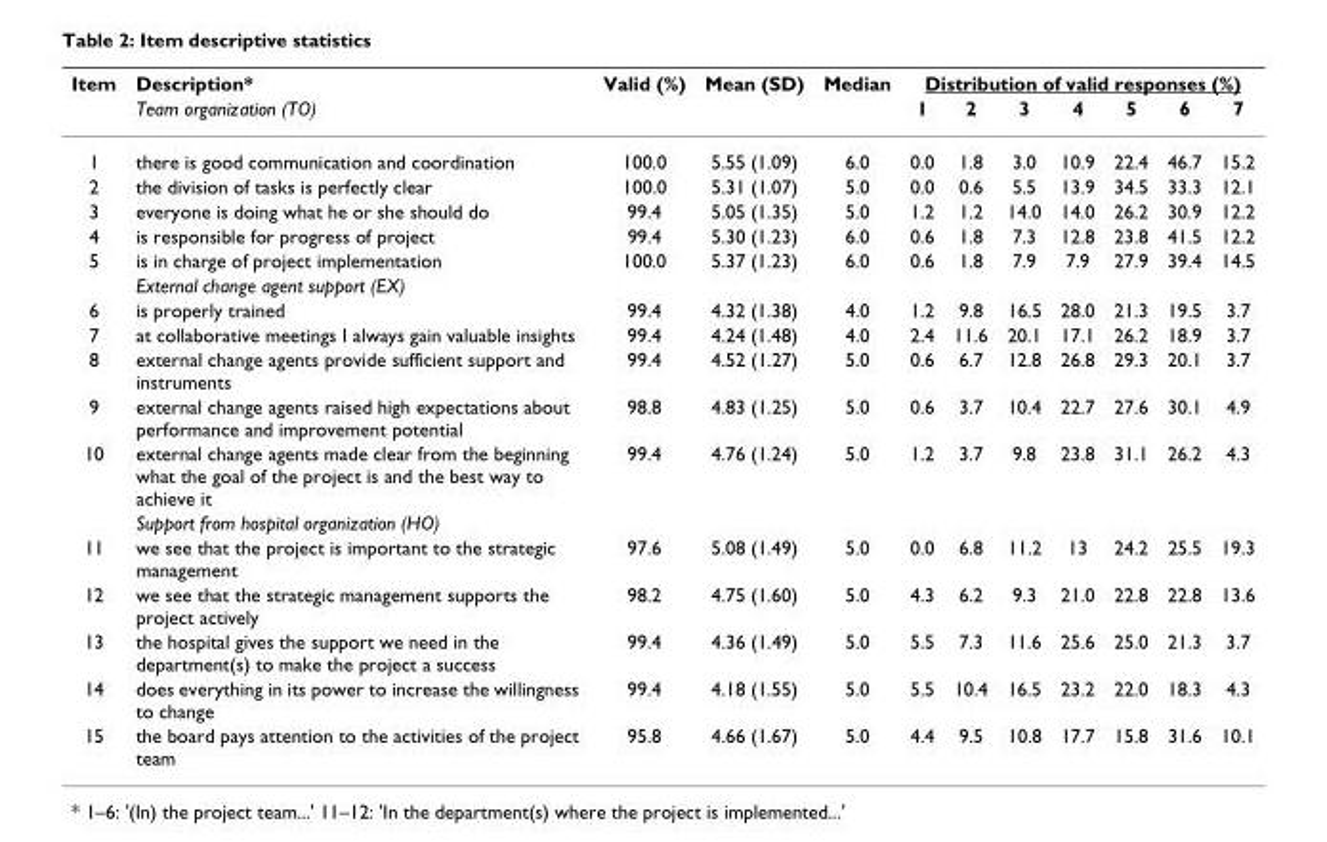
<table><thead><tr><td rowspan="2">Item</td><td rowspan="2">Description* Team organization (TO)</td><td rowspan="2">Valid (%)</td><td rowspan="2">Mean (SD)</td><td rowspan="2">Median</td><td colspan="7">Distribution of valid responses (%)</td></tr><tr><td>1</td><td>2</td><td>3</td><td>4</td><td>5</td><td>6</td><td>7</td></tr></thead><tbody><tr><td>1</td><td>there is good communication and coordination</td><td>100.0</td><td>5.55 (1.09)</td><td>6.0</td><td>0.0</td><td>1.8</td><td>3.0</td><td>10.9</td><td>22.4</td><td>46.7</td><td>15.2</td></tr><tr><td>2</td><td>the division of tasks is perfectly clear</td><td>100.0</td><td>5.31 (1.07)</td><td>5.0</td><td>0.0</td><td>0.6</td><td>5.5</td><td>13.9</td><td>34.5</td><td>33.3</td><td>12.1</td></tr><tr><td>3</td><td>everyone is doing what he or she should do</td><td>99.4</td><td>5.05 (1.35)</td><td>5.0</td><td>1.2</td><td>1.2</td><td>14.0</td><td>14.0</td><td>26.2</td><td>30.9</td><td>12.2</td></tr><tr><td>4</td><td>is responsible for progress of project</td><td>99.4</td><td>5.30 (1.23)</td><td>6.0</td><td>0.6</td><td>1.8</td><td>7.3</td><td>12.8</td><td>23.8</td><td>41.5</td><td>12.2</td></tr><tr><td rowspan="2">5</td><td>is in charge of project implementation</td><td>100.0</td><td>5.37 (1.23)</td><td>6.0</td><td>0.6</td><td>1.8</td><td>7.9</td><td>7.9</td><td>27.9</td><td>39.4</td><td>14.5</td></tr><tr><td>External change agent support (EX)</td><td></td><td></td><td></td><td></td><td></td><td></td><td></td><td></td><td></td><td></td></tr><tr><td>6</td><td>is properly trained</td><td>99.4</td><td>4.32 (1.38)</td><td>4.0</td><td>1.2</td><td>9.8</td><td>16.5</td><td>28.0</td><td>21.3</td><td>19.5</td><td>3.7</td></tr><tr><td>7</td><td>at collaborative meetings I always gain valuable insights</td><td>99.4</td><td>4.24 (1.48)</td><td>4.0</td><td>2.4</td><td>11.6</td><td>20.1</td><td>17.1</td><td>26.2</td><td>18.9</td><td>3.7</td></tr><tr><td>8</td><td>external change agents provide sufficient support and instruments</td><td>99.4</td><td>4.52 (1.27)</td><td>5.0</td><td>0.6</td><td>6.7</td><td>12.8</td><td>26.8</td><td>29.3</td><td>20.1</td><td>3.7</td></tr><tr><td>9</td><td>external change agents raised high expectations about performance and improvement potential</td><td>98.8</td><td>4.83 (1.25)</td><td>5.0</td><td>0.6</td><td>3.7</td><td>10.4</td><td>22.7</td><td>27.6</td><td>30.1</td><td>4.9</td></tr><tr><td rowspan="2">10</td><td>external change agents made clear from the beginning what the goal of the project is and the best way to achieve it</td><td>99.4</td><td>4.76 (1.24)</td><td>5.0</td><td>1.2</td><td>3.7</td><td>9.8</td><td>23.8</td><td>31.1</td><td>26.2</td><td>4.3</td></tr><tr><td>Support from hospital organization (HO)</td><td></td><td></td><td></td><td></td><td></td><td></td><td></td><td></td><td></td><td></td></tr><tr><td>11</td><td>we see that the project is important to the strategic management</td><td>97.6</td><td>5.08 (1.49)</td><td>5.0</td><td>0.0</td><td>6.8</td><td>11.2</td><td>13</td><td>24.2</td><td>25.5</td><td>19.3</td></tr><tr><td>12</td><td>we see that the strategic management supports the project actively</td><td>98.2</td><td>4.75 (1.60)</td><td>5.0</td><td>4.3</td><td>6.2</td><td>9.3</td><td>21.0</td><td>22.8</td><td>22.8</td><td>13.6</td></tr><tr><td>13</td><td>the hospital gives the support we need in the department(s) to make the project a success</td><td>99.4</td><td>4.36 (1.49)</td><td>5.0</td><td>5.5</td><td>7.3</td><td>11.6</td><td>25.6</td><td>25.0</td><td>21.3</td><td>3.7</td></tr><tr><td>14</td><td>does everything in its power to increase the willingness to change</td><td>99.4</td><td>4.18 (1.55)</td><td>5.0</td><td>5.5</td><td>10.4</td><td>16.5</td><td>23.2</td><td>22.0</td><td>18.3</td><td>4.3</td></tr><tr><td>15</td><td>the board pays attention to the activities of the project team</td><td>95.8</td><td>4.66 (1.67)</td><td>5.0</td><td>4.4</td><td>9.5</td><td>10.8</td><td>17.7</td><td>15.8</td><td>31.6</td><td>10.1</td></tr></tbody></table>